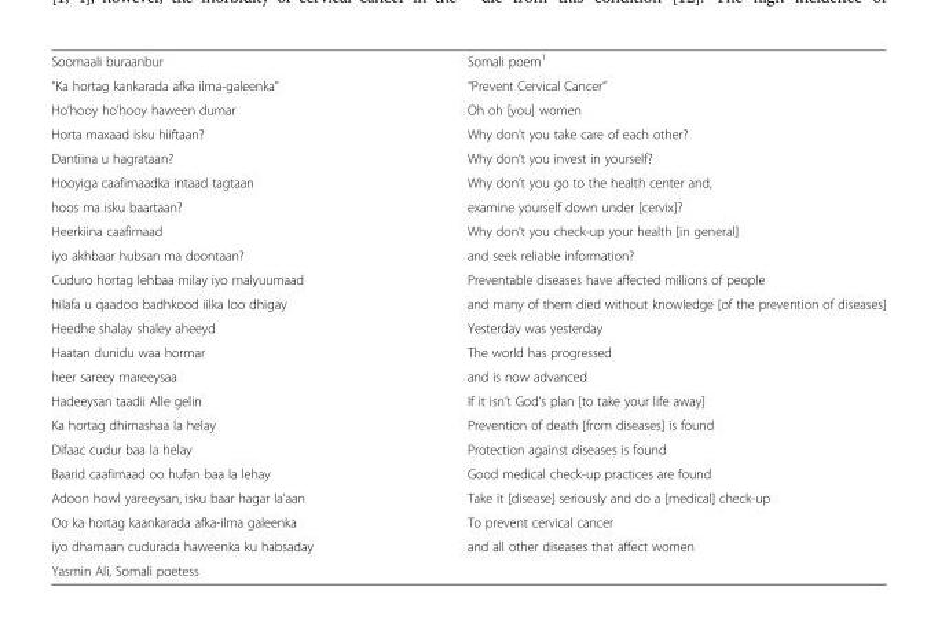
<table><tbody><tr><td>Soomaali buraanbur</td><td>Somali poem<sup>1</sup></td></tr><tr><td>“Ka hortag kankarada afka ilma-galeenka”</td><td>“Prevent Cervical Cancer”</td></tr><tr><td>Ho’hooy ho’hooy haween dumar</td><td>Oh oh [you] women</td></tr><tr><td>Horta maxaad isku hiiftaan?</td><td>Why don’t you take care of each other?</td></tr><tr><td>Dantiina u hagrataan?</td><td>Why don’t you invest in yourself?</td></tr><tr><td>Hooyiga caafimaadka intaad tagtaan</td><td>Why don’t you go to the health center and,</td></tr><tr><td>hoos ma isku baartaan?</td><td>examine yourself down under [cervix]?</td></tr><tr><td>Heerkiina caafimaad</td><td>Why don’t you check-up your health [in general]</td></tr><tr><td>iyo akhbaar hubsan ma doontaan?</td><td>and seek reliable information?</td></tr><tr><td>Cuduro hortag lehbaa milay iyo malyuumaad</td><td>Preventable diseases have affected millions of people</td></tr><tr><td>hilafa u qaadoo badhkood iilka loo dhigay</td><td>and many of them died without knowledge [of the prevention of diseases]</td></tr><tr><td>Heedhe shalay shaley aheeyd</td><td>Yesterday was yesterday</td></tr><tr><td>Haatan dunidu waa hormar</td><td>The world has progressed</td></tr><tr><td>heer sareey mareeysaa</td><td>and is now advanced</td></tr><tr><td>Hadeeysan taadii Alle gelin</td><td>If it isn’t God’s plan [to take your life away]</td></tr><tr><td>Ka hortag dhimashaa la helay</td><td>Prevention of death [from diseases] is found</td></tr><tr><td>Difaac cudur baa la helay</td><td>Protection against diseases is found</td></tr><tr><td>Baarid caafimaad oo hufan baa la lehay</td><td>Good medical check-up practices are found</td></tr><tr><td>Adoon howl yareeysan, isku baar hagar la’aan</td><td>Take it [disease] seriously and do a [medical] check-up</td></tr><tr><td>Oo ka hortag kaankarada afka-ilma galeenka</td><td>To prevent cervical cancer</td></tr><tr><td>iyo dhamaan cudurada haweenka ku habsaday</td><td>and all other diseases that affect women</td></tr><tr><td>Yasmin Ali, Somali poetess</td><td></td></tr></tbody></table>